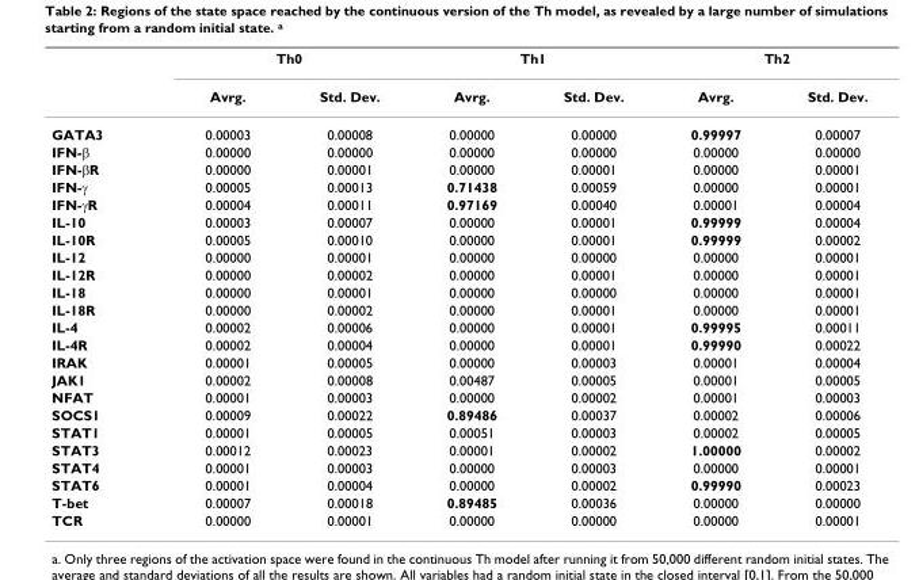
<table><thead><tr><td rowspan="2"></td><td colspan="2">Th0</td><td colspan="2">Th1</td><td colspan="2">Th2</td></tr><tr><td>Avrg.</td><td>Std. Dev.</td><td>Avrg.</td><td>Std. Dev.</td><td>Avrg.</td><td>Std. Dev.</td></tr></thead><tbody><tr><td>GATA3</td><td>0.00003</td><td>0.00008</td><td>0.00000</td><td>0.00000</td><td>0.99997</td><td>0.00007</td></tr><tr><td>IFN-β</td><td>0.00000</td><td>0.00000</td><td>0.00000</td><td>0.00000</td><td>0.00000</td><td>0.00000</td></tr><tr><td>IFN-βR</td><td>0.00000</td><td>0.00001</td><td>0.00000</td><td>0.00001</td><td>0.00000</td><td>0.00001</td></tr><tr><td>IFN-γ</td><td>0.00005</td><td>0.00013</td><td>0.71438</td><td>0.00059</td><td>0.00000</td><td>0.00001</td></tr><tr><td>IFN-γR</td><td>0.00004</td><td>0.00011</td><td>0.97169</td><td>0.00040</td><td>0.00001</td><td>0.00004</td></tr><tr><td>IL-10</td><td>0.00003</td><td>0.00007</td><td>0.00000</td><td>0.00001</td><td>0.99999</td><td>0.00004</td></tr><tr><td>IL-10R</td><td>0.00005</td><td>0.00010</td><td>0.00000</td><td>0.00001</td><td>0.99999</td><td>0.00002</td></tr><tr><td>IL-12</td><td>0.00000</td><td>0.00001</td><td>0.00000</td><td>0.00000</td><td>0.00000</td><td>0.00001</td></tr><tr><td>IL-12R</td><td>0.00000</td><td>0.00002</td><td>0.00000</td><td>0.00001</td><td>0.00000</td><td>0.00001</td></tr><tr><td>IL-18</td><td>0.00000</td><td>0.00001</td><td>0.00000</td><td>0.00000</td><td>0.00000</td><td>0.00001</td></tr><tr><td>IL-18R</td><td>0.00000</td><td>0.00002</td><td>0.00000</td><td>0.00001</td><td>0.00000</td><td>0.00001</td></tr><tr><td>IL-4</td><td>0.00002</td><td>0.00006</td><td>0.00000</td><td>0.00001</td><td>0.99995</td><td>0.00011</td></tr><tr><td>IL-4R</td><td>0.00002</td><td>0.00004</td><td>0.00000</td><td>0.00001</td><td>0.99990</td><td>0.00022</td></tr><tr><td>IRAK</td><td>0.00001</td><td>0.00005</td><td>0.00000</td><td>0.00003</td><td>0.00001</td><td>0.00004</td></tr><tr><td>JAK1</td><td>0.00002</td><td>0.00008</td><td>0.00487</td><td>0.00005</td><td>0.00001</td><td>0.00005</td></tr><tr><td>NFAT</td><td>0.00001</td><td>0.00003</td><td>0.00000</td><td>0.00002</td><td>0.00001</td><td>0.00003</td></tr><tr><td>SOCS1</td><td>0.00009</td><td>0.00022</td><td>0.89486</td><td>0.00037</td><td>0.00002</td><td>0.00006</td></tr><tr><td>STAT1</td><td>0.00001</td><td>0.00005</td><td>0.00051</td><td>0.00003</td><td>0.00002</td><td>0.00005</td></tr><tr><td>STAT3</td><td>0.00012</td><td>0.00023</td><td>0.00001</td><td>0.00002</td><td>1.00000</td><td>0.00002</td></tr><tr><td>STAT4</td><td>0.00001</td><td>0.00003</td><td>0.00000</td><td>0.00003</td><td>0.00000</td><td>0.00001</td></tr><tr><td>STAT6</td><td>0.00001</td><td>0.00004</td><td>0.00000</td><td>0.00002</td><td>0.99990</td><td>0.00023</td></tr><tr><td>T-bet</td><td>0.00007</td><td>0.00018</td><td>0.89485</td><td>0.00036</td><td>0.00000</td><td>0.00000</td></tr><tr><td>TCR</td><td>0.00000</td><td>0.00001</td><td>0.00000</td><td>0.00000</td><td>0.00000</td><td>0.00001</td></tr></tbody></table>